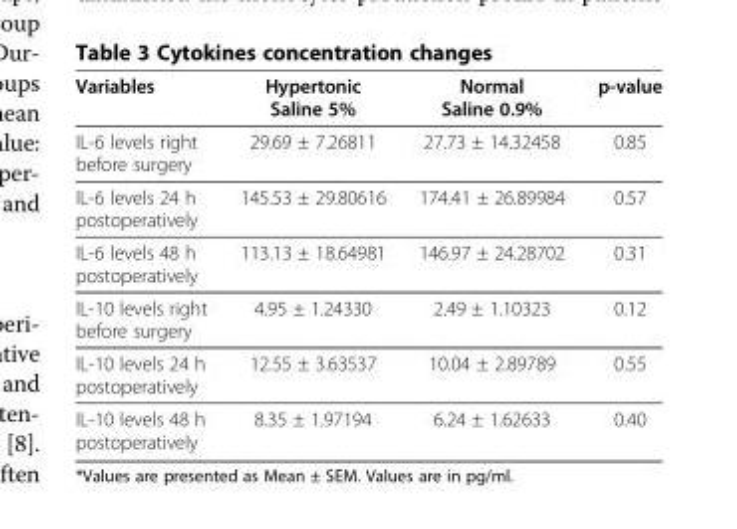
<table><thead><tr><td>Variables</td><td>Hypertonic Saline 5%</td><td>Normal Saline 0.9%</td><td>p-value</td></tr></thead><tbody><tr><td>IL-6 levels right before surgery</td><td>29.69 ± 7.26811</td><td>27.73 ± 14.32458</td><td>0.85</td></tr><tr><td>IL-6 levels 24 h postoperatively</td><td>145.53 ± 29.80616</td><td>174.41 ± 26.89984</td><td>0.57</td></tr><tr><td>IL-6 levels 48 h postoperatively</td><td>113.13 ± 18.64981</td><td>146.97 ± 24.28702</td><td>0.31</td></tr><tr><td>IL-10 levels right before surgery</td><td>4.95 ± 1.24330</td><td>2.49 ± 1.10323</td><td>0.12</td></tr><tr><td>IL-10 levels 24 h postoperatively</td><td>12.55 ± 3.63537</td><td>10.04 ± 2.89789</td><td>0.55</td></tr><tr><td>IL-10 levels 48 h postoperatively</td><td>8.35 ± 1.97194</td><td>6.24 ± 1.62633</td><td>0.40</td></tr></tbody></table>